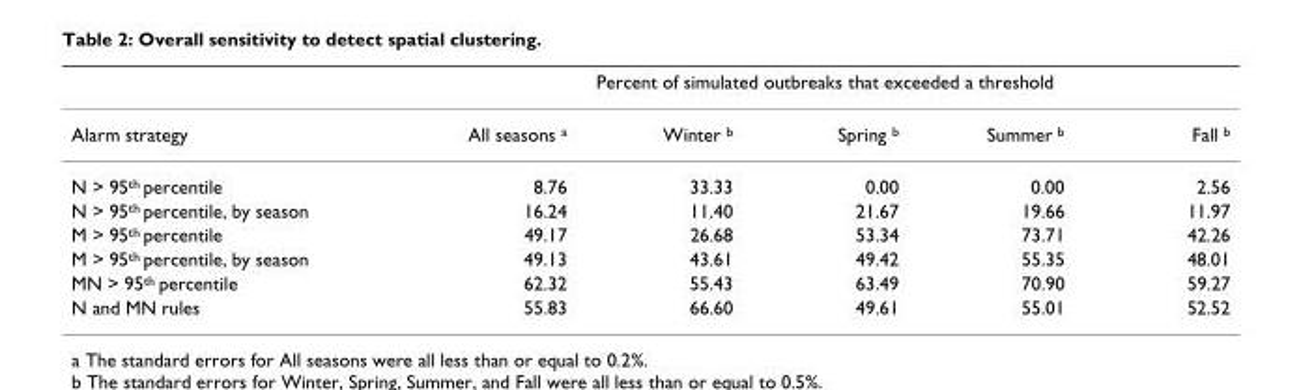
<table><thead><tr><td rowspan="2">Alarm strategy</td><td colspan="5">Percent of simulated outbreaks that exceeded a threshold</td></tr><tr><td>All seasons <sup>a</sup></td><td>Winter <sup>b</sup></td><td>Spring <sup>b</sup></td><td>Summer <sup>b</sup></td><td>Fall <sup>b</sup></td></tr></thead><tbody><tr><td>N &gt; 95<sup>th</sup> percentile</td><td>8.76</td><td>33.33</td><td>0.00</td><td>0.00</td><td>2.56</td></tr><tr><td>N &gt; 95<sup>th</sup> percentile, by season</td><td>16.24</td><td>11.40</td><td>21.67</td><td>19.66</td><td>11.97</td></tr><tr><td>M &gt; 95<sup>th</sup> percentile</td><td>49.17</td><td>26.68</td><td>53.34</td><td>73.71</td><td>42.26</td></tr><tr><td>M &gt; 95<sup>th</sup> percentile, by season</td><td>49.13</td><td>43.61</td><td>49.42</td><td>55.35</td><td>48.01</td></tr><tr><td>MN &gt; 95<sup>th</sup> percentile</td><td>62.32</td><td>55.43</td><td>63.49</td><td>70.90</td><td>59.27</td></tr><tr><td>N and MN rules</td><td>55.83</td><td>66.60</td><td>49.61</td><td>55.01</td><td>52.52</td></tr></tbody></table>